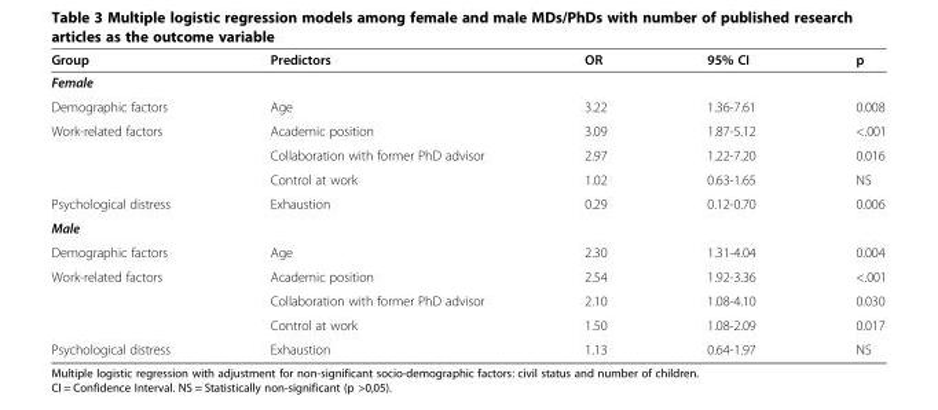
<table><thead><tr><td>Group</td><td>Predictors</td><td>OR</td><td>95% CI</td><td>p</td></tr></thead><tbody><tr><td colspan="5">Female</td></tr><tr><td>Demographic factors</td><td>Age</td><td>3.22</td><td>1.36-7.61</td><td>0.008</td></tr><tr><td rowspan="3">Work-related factors</td><td>Academic position</td><td>3.09</td><td>1.87-5.12</td><td>&lt;.001</td></tr><tr><td>Collaboration with former PhD advisor</td><td>2.97</td><td>1.22-7.20</td><td>0.016</td></tr><tr><td>Control at work</td><td>1.02</td><td>0.63-1.65</td><td>NS</td></tr><tr><td>Psychological distress</td><td>Exhaustion</td><td>0.29</td><td>0.12-0.70</td><td>0.006</td></tr><tr><td colspan="5">Male</td></tr><tr><td>Demographic factors</td><td>Age</td><td>2.30</td><td>1.31-4.04</td><td>0.004</td></tr><tr><td rowspan="3">Work-related factors</td><td>Academic position</td><td>2.54</td><td>1.92-3.36</td><td>&lt;.001</td></tr><tr><td>Collaboration with former PhD advisor</td><td>2.10</td><td>1.08-4.10</td><td>0.030</td></tr><tr><td>Control at work</td><td>1.50</td><td>1.08-2.09</td><td>0.017</td></tr><tr><td>Psychological distress</td><td>Exhaustion</td><td>1.13</td><td>0.64-1.97</td><td>NS</td></tr></tbody></table>